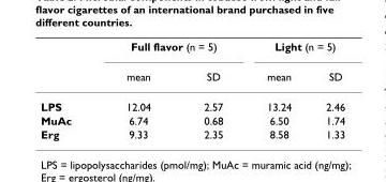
<table><thead><tr><td rowspan="2"></td><td colspan="2">Full flavor (n = 5)</td><td colspan="2">Light (n = 5)</td></tr><tr><td>mean</td><td>SD</td><td>mean</td><td>SD</td></tr></thead><tbody><tr><td>LPS</td><td>12.04</td><td>2.57</td><td>13.24</td><td>2.46</td></tr><tr><td>MuAc</td><td>6.74</td><td>0.68</td><td>6.50</td><td>1.74</td></tr><tr><td>Erg</td><td>9.33</td><td>2.35</td><td>8.58</td><td>1.33</td></tr></tbody></table>